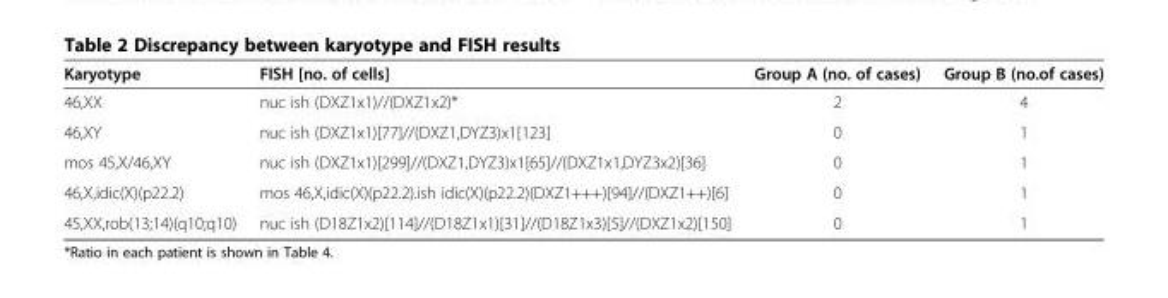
<table><thead><tr><td>Karyotype</td><td>FISH [no. of cells]</td><td>Group A (no. of cases)</td><td>Group B (no.of cases)</td></tr></thead><tbody><tr><td>46,XX</td><td>nuc ish (DXZ1x1)//(DXZ1x2)*</td><td>2</td><td>4</td></tr><tr><td>46,XY</td><td>nuc ish (DXZ1x1)[77]//(DXZ1,DYZ3)x1[123]</td><td>0</td><td>1</td></tr><tr><td>mos 45,X/46,XY</td><td>nuc ish (DXZ1x1)[299]//(DXZ1,DYZ3)x1[65]//(DXZ1x1,DYZ3x2)[36]</td><td>0</td><td>1</td></tr><tr><td>46,X,idic(X)(p22.2)</td><td>mos 46,X,idic(X)(p22.2).ish idic(X)(p22.2)(DXZ1+++)[94]//(DXZ1++)[6]</td><td>0</td><td>1</td></tr><tr><td>45,XX,rob(13;14)(q10;q10)</td><td>nuc ish (D18Z1x2)[114]//(D18Z1x1)[31]//(D18Z1x3)[5]//(DXZ1x2)[150]</td><td>0</td><td>1</td></tr></tbody></table>